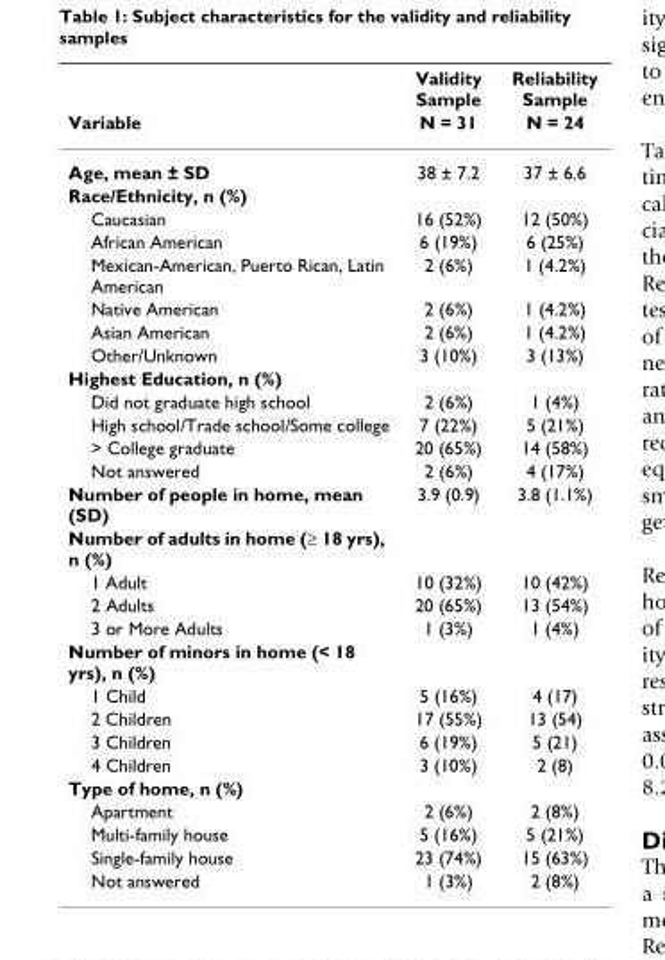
<table><thead><tr><td rowspan="2">Variable</td><td rowspan="2">Validity Sample N = 31</td><td rowspan="2">Reliability Sample N = 24</td></tr><tr></tr></thead><tbody><tr><td>Age, mean ± SD</td><td>38 ± 7.2</td><td>37 ± 6.6</td></tr><tr><td colspan="3">Race/Ethnicity, n (%)</td></tr><tr><td>Caucasian</td><td>16 (52%)</td><td>12 (50%)</td></tr><tr><td>African American</td><td>6 (19%)</td><td>6 (25%)</td></tr><tr><td>Mexican-American, Puerto Rican, Latin American</td><td>2 (6%)</td><td>1 (4.2%)</td></tr><tr><td>Native American</td><td>2 (6%)</td><td>1 (4.2%)</td></tr><tr><td>Asian American</td><td>2 (6%)</td><td>1 (4.2%)</td></tr><tr><td>Other/Unknown</td><td>3 (10%)</td><td>3 (13%)</td></tr><tr><td colspan="3">Highest Education, n (%)</td></tr><tr><td>Did not graduate high school</td><td>2 (6%)</td><td>1 (4%)</td></tr><tr><td>High school/Trade school/Some college</td><td>7 (22%)</td><td>5 (21%)</td></tr><tr><td>&gt; College graduate</td><td>20 (65%)</td><td>14 (58%)</td></tr><tr><td>Not answered</td><td>2 (6%)</td><td>4 (17%)</td></tr><tr><td>Number of people in home, mean (SD)</td><td>3.9 (0.9)</td><td>3.8 (1.1%)</td></tr><tr><td colspan="3">Number of adults in home (≥ 18 yrs), n (%)</td></tr><tr><td>1 Adult</td><td>10 (32%)</td><td>10 (42%)</td></tr><tr><td>2 Adults</td><td>20 (65%)</td><td>13 (54%)</td></tr><tr><td>3 or More Adults</td><td>1 (3%)</td><td>1 (4%)</td></tr><tr><td colspan="3">Number of minors in home (&lt; 18 yrs), n (%)</td></tr><tr><td>1 Child</td><td>5 (16%)</td><td>4 (17)</td></tr><tr><td>2 Children</td><td>17 (55%)</td><td>13 (54)</td></tr><tr><td>3 Children</td><td>6 (19%)</td><td>5 (21)</td></tr><tr><td>4 Children</td><td>3 (10%)</td><td>2 (8)</td></tr><tr><td colspan="3">Type of home, n (%)</td></tr><tr><td>Apartment</td><td>2 (6%)</td><td>2 (8%)</td></tr><tr><td>Multi-family house</td><td>5 (16%)</td><td>5 (21%)</td></tr><tr><td>Single-family house</td><td>23 (74%)</td><td>15 (63%)</td></tr><tr><td>Not answered</td><td>1 (3%)</td><td>2 (8%)</td></tr></tbody></table>